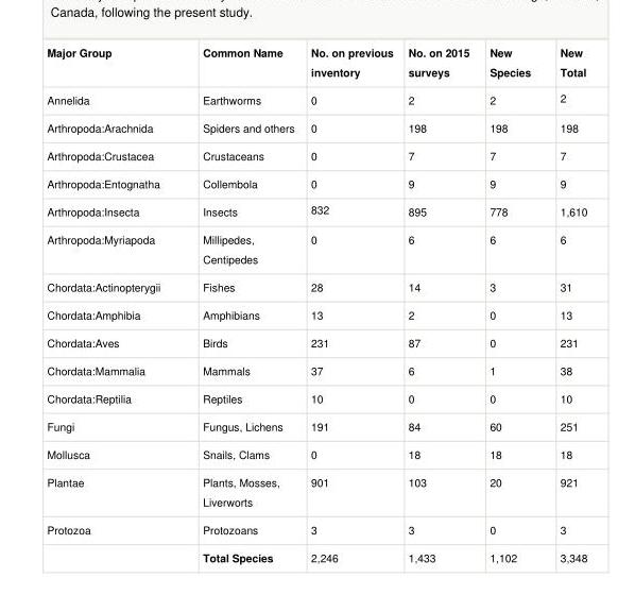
<table><tbody><tr><td>Major Group</td><td>Common Name</td><td>No. on previous inventory</td><td>No. on 2015 surveys</td><td>New Species</td><td>New Total</td></tr><tr><td>Annelida</td><td>Earthworms</td><td>0</td><td>2</td><td>2</td><td>2</td></tr><tr><td>Arthropoda:Arachnida</td><td>Spiders and others</td><td>0</td><td>198</td><td>198</td><td>198</td></tr><tr><td>Arthropoda:Crustacea</td><td>Crustaceans</td><td>0</td><td>7</td><td>7</td><td>7</td></tr><tr><td>Arthropoda:Entognatha</td><td>Collembola</td><td>0</td><td>9</td><td>9</td><td>9</td></tr><tr><td>Arthropoda:Insecta</td><td>Insects</td><td>832</td><td>895</td><td>778</td><td>1,610</td></tr><tr><td>Arthropoda:Myriapoda</td><td>Millipedes, Centipedes</td><td>0</td><td>6</td><td>6</td><td>6</td></tr><tr><td>Chordata:Actinopterygii</td><td>Fishes</td><td>28</td><td>14</td><td>3</td><td>31</td></tr><tr><td>Chordata:Amphibia</td><td>Amphibians</td><td>13</td><td>2</td><td>0</td><td>13</td></tr><tr><td>Chordata:Aves</td><td>Birds</td><td>231</td><td>87</td><td>0</td><td>231</td></tr><tr><td>Chordata:Mammalia</td><td>Mammals</td><td>37</td><td>6</td><td>1</td><td>38</td></tr><tr><td>Chordata:Reptilia</td><td>Reptiles</td><td>10</td><td>0</td><td>0</td><td>10</td></tr><tr><td>Fungi</td><td>Fungus, Lichens</td><td>191</td><td>84</td><td>60</td><td>251</td></tr><tr><td>Mollusca</td><td>Snails, Clams</td><td>0</td><td>18</td><td>18</td><td>18</td></tr><tr><td>Plantae</td><td>Plants, Mosses, Liverworts</td><td>901</td><td>103</td><td>20</td><td>921</td></tr><tr><td rowspan="2">Protozoa</td><td>Protozoans</td><td>3</td><td>3</td><td>0</td><td>3</td></tr><tr><td>Total Species</td><td>2,246</td><td>1,433</td><td>1,102</td><td>3,348</td></tr></tbody></table>